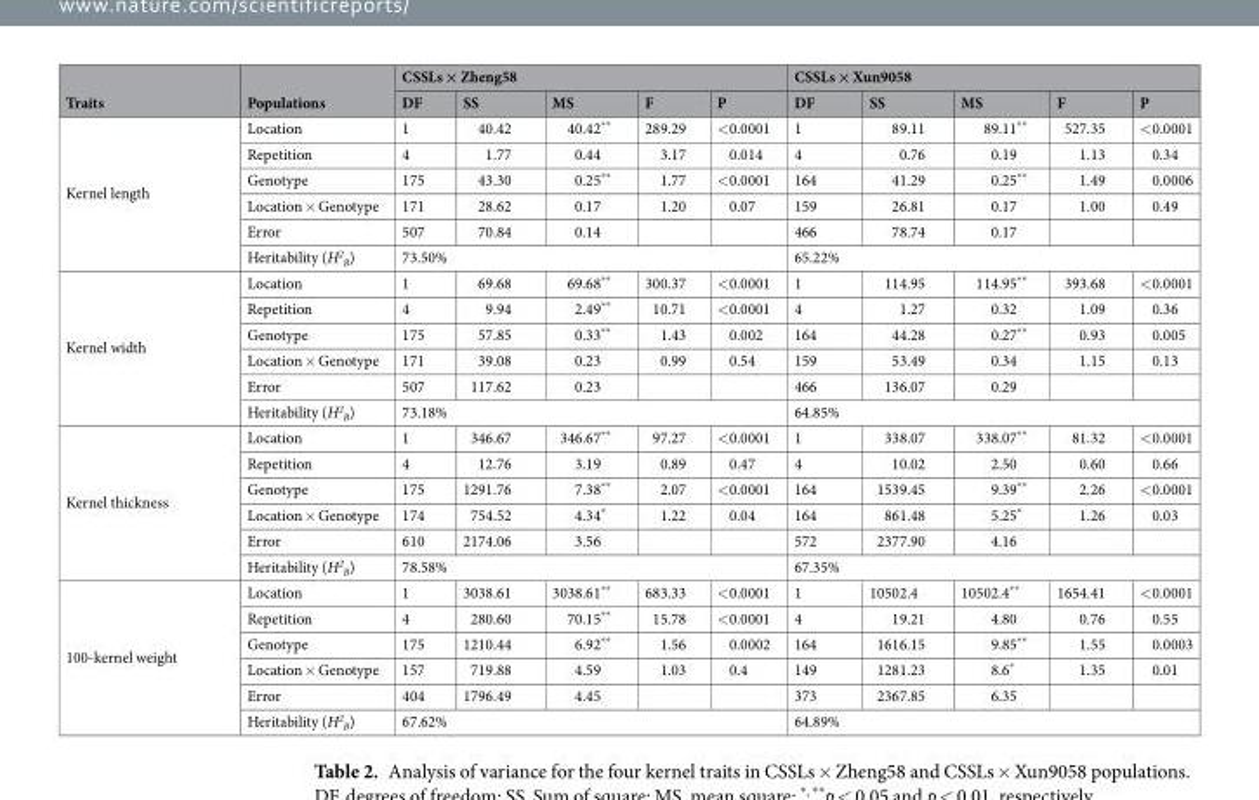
<table><thead><tr><td rowspan="2">Traits</td><td rowspan="2">Populations</td><td colspan="5">CSSLs × Zheng58</td><td colspan="5">CSSLs × Xun9058</td></tr><tr><td>DF</td><td>SS</td><td>MS</td><td>F</td><td>P</td><td>DF</td><td>SS</td><td>MS</td><td>F</td><td>P</td></tr></thead><tbody><tr><td rowspan="6">Kernel length</td><td>Location</td><td>1</td><td>40.42</td><td>40.42**</td><td>289.29</td><td>&lt;0.0001</td><td>1</td><td>89.11</td><td>89.11**</td><td>527.35</td><td>&lt;0.0001</td></tr><tr><td>Repetition</td><td>4</td><td>1.77</td><td>0.44</td><td>3.17</td><td>0.014</td><td>4</td><td>0.76</td><td>0.19</td><td>1.13</td><td>0.34</td></tr><tr><td>Genotype</td><td>175</td><td>43.30</td><td>0.25**</td><td>1.77</td><td>&lt;0.0001</td><td>164</td><td>41.29</td><td>0.25**</td><td>1.49</td><td>0.0006</td></tr><tr><td>Location × Genotype</td><td>171</td><td>28.62</td><td>0.17</td><td>1.20</td><td>0.07</td><td>159</td><td>26.81</td><td>0.17</td><td>1.00</td><td>0.49</td></tr><tr><td>Error</td><td>507</td><td>70.84</td><td>0.14</td><td></td><td></td><td>466</td><td>78.74</td><td>0.17</td><td></td><td></td></tr><tr><td>Heritability (H<sup>2</sup> <sub>B</sub>)</td><td colspan="5">73.50%</td><td colspan="5">65.22%</td></tr><tr><td rowspan="6">Kernel width</td><td>Location</td><td>1</td><td>69.68</td><td>69.68**</td><td>300.37</td><td>&lt;0.0001</td><td>1</td><td>114.95</td><td>114.95**</td><td>393.68</td><td>&lt;0.0001</td></tr><tr><td>Repetition</td><td>4</td><td>9.94</td><td>2.49**</td><td>10.71</td><td>&lt;0.0001</td><td>4</td><td>1.27</td><td>0.32</td><td>1.09</td><td>0.36</td></tr><tr><td>Genotype</td><td>175</td><td>57.85</td><td>0.33**</td><td>1.43</td><td>0.002</td><td>164</td><td>44.28</td><td>0.27**</td><td>0.93</td><td>0.005</td></tr><tr><td>Location × Genotype</td><td>171</td><td>39.08</td><td>0.23</td><td>0.99</td><td>0.54</td><td>159</td><td>53.49</td><td>0.34</td><td>1.15</td><td>0.13</td></tr><tr><td>Error</td><td>507</td><td>117.62</td><td>0.23</td><td></td><td></td><td>466</td><td>136.07</td><td>0.29</td><td></td><td></td></tr><tr><td>Heritability (H<sup>2</sup> <sub>B</sub>)</td><td colspan="5">73.18%</td><td colspan="5">64.85%</td></tr><tr><td rowspan="6">Kernel thickness</td><td>Location</td><td>1</td><td>346.67</td><td>346.67**</td><td>97.27</td><td>&lt;0.0001</td><td>1</td><td>338.07</td><td>338.07**</td><td>81.32</td><td>&lt;0.0001</td></tr><tr><td>Repetition</td><td>4</td><td>12.76</td><td>3.19</td><td>0.89</td><td>0.47</td><td>4</td><td>10.02</td><td>2.50</td><td>0.60</td><td>0.66</td></tr><tr><td>Genotype</td><td>175</td><td>1291.76</td><td>7.38**</td><td>2.07</td><td>&lt;0.0001</td><td>164</td><td>1539.45</td><td>9.39**</td><td>2.26</td><td>&lt;0.0001</td></tr><tr><td>Location × Genotype</td><td>174</td><td>754.52</td><td>4.34*</td><td>1.22</td><td>0.04</td><td>164</td><td>861.48</td><td>5.25*</td><td>1.26</td><td>0.03</td></tr><tr><td>Error</td><td>610</td><td>2174.06</td><td>3.56</td><td></td><td></td><td>572</td><td>2377.90</td><td>4.16</td><td></td><td></td></tr><tr><td>Heritability (H<sup>2</sup> <sub>B</sub>)</td><td colspan="5">78.58%</td><td colspan="5">67.35%</td></tr><tr><td rowspan="6">100-kernel weight</td><td>Location</td><td>1</td><td>3038.61</td><td>3038.61**</td><td>683.33</td><td>&lt;0.0001</td><td>1</td><td>10502.4</td><td>10502.4**</td><td>1654.41</td><td>&lt;0.0001</td></tr><tr><td>Repetition</td><td>4</td><td>280.60</td><td>70.15**</td><td>15.78</td><td>&lt;0.0001</td><td>4</td><td>19.21</td><td>4.80</td><td>0.76</td><td>0.55</td></tr><tr><td>Genotype</td><td>175</td><td>1210.44</td><td>6.92**</td><td>1.56</td><td>0.0002</td><td>164</td><td>1616.15</td><td>9.85**</td><td>1.55</td><td>0.0003</td></tr><tr><td>Location × Genotype</td><td>157</td><td>719.88</td><td>4.59</td><td>1.03</td><td>0.4</td><td>149</td><td>1281.23</td><td>8.6*</td><td>1.35</td><td>0.01</td></tr><tr><td>Error</td><td>404</td><td>1796.49</td><td>4.45</td><td></td><td></td><td>373</td><td>2367.85</td><td>6.35</td><td></td><td></td></tr><tr><td>Heritability (H<sup>2</sup> <sub>B</sub>)</td><td colspan="5">67.62%</td><td colspan="5">64.89%</td></tr></tbody></table>